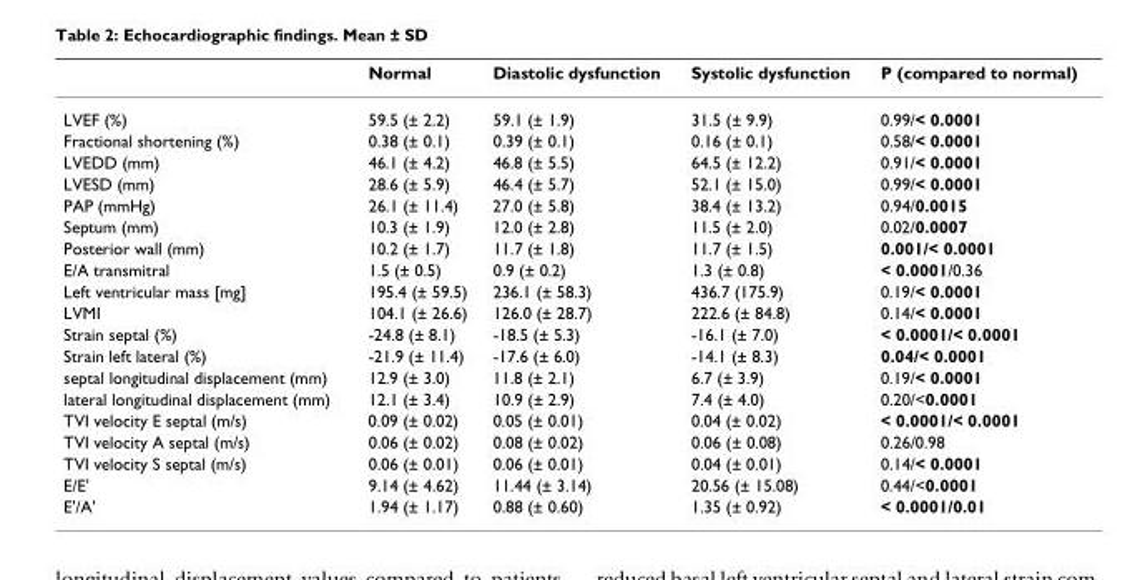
<table><thead><tr><td></td><td>Normal</td><td>Diastolic dysfunction</td><td>Systolic dysfunction</td><td>P (compared to normal)</td></tr></thead><tbody><tr><td>LVEF (%)</td><td>59.5 (± 2.2)</td><td>59.1 (± 1.9)</td><td>31.5 (± 9.9)</td><td>0.99/&lt; 0.0001</td></tr><tr><td>Fractional shortening (%)</td><td>0.38 (± 0.1)</td><td>0.39 (± 0.1)</td><td>0.16 (± 0.1)</td><td>0.58/&lt; 0.0001</td></tr><tr><td>LVEDD (mm)</td><td>46.1 (± 4.2)</td><td>46.8 (± 5.5)</td><td>64.5 (± 12.2)</td><td>0.91/&lt; 0.0001</td></tr><tr><td>LVESD (mm)</td><td>28.6 (± 5.9)</td><td>46.4 (± 5.7)</td><td>52.1 (± 15.0)</td><td>0.99/&lt; 0.0001</td></tr><tr><td>PAP (mmHg)</td><td>26.1 (± 11.4)</td><td>27.0 (± 5.8)</td><td>38.4 (± 13.2)</td><td>0.94/0.0015</td></tr><tr><td>Septum (mm)</td><td>10.3 (± 1.9)</td><td>12.0 (± 2.8)</td><td>11.5 (± 2.0)</td><td>0.02/0.0007</td></tr><tr><td>Posterior wall (mm)</td><td>10.2 (± 1.7)</td><td>11.7 (± 1.8)</td><td>11.7 (± 1.5)</td><td>0.001/&lt; 0.0001</td></tr><tr><td>E/A transmitral</td><td>1.5 (± 0.5)</td><td>0.9 (± 0.2)</td><td>1.3 (± 0.8)</td><td>&lt; 0.0001/0.36</td></tr><tr><td>Left ventricular mass [mg]</td><td>195.4 (± 59.5)</td><td>236.1 (± 58.3)</td><td>436.7 (175.9)</td><td>0.19/&lt; 0.0001</td></tr><tr><td>LVMI</td><td>104.1 (± 26.6)</td><td>126.0 (± 28.7)</td><td>222.6 (± 84.8)</td><td>0.14/&lt; 0.0001</td></tr><tr><td>Strain septal (%)</td><td>-24.8 (± 8.1)</td><td>-18.5 (± 5.3)</td><td>-16.1 (± 7.0)</td><td>&lt; 0.0001/&lt; 0.0001</td></tr><tr><td>Strain left lateral (%)</td><td>-21.9 (± 11.4)</td><td>-17.6 (± 6.0)</td><td>-14.1 (± 8.3)</td><td>0.04/&lt; 0.0001</td></tr><tr><td>septal longitudinal displacement (mm)</td><td>12.9 (± 3.0)</td><td>11.8 (± 2.1)</td><td>6.7 (± 3.9)</td><td>0.19/&lt; 0.0001</td></tr><tr><td>lateral longitudinal displacement (mm)</td><td>12.1 (± 3.4)</td><td>10.9 (± 2.9)</td><td>7.4 (± 4.0)</td><td>0.20/&lt;0.0001</td></tr><tr><td>TVI velocity E septal (m/s)</td><td>0.09 (± 0.02)</td><td>0.05 (± 0.01)</td><td>0.04 (± 0.02)</td><td>&lt; 0.0001/&lt; 0.0001</td></tr><tr><td>TVI velocity A septal (m/s)</td><td>0.06 (± 0.02)</td><td>0.08 (± 0.02)</td><td>0.06 (± 0.08)</td><td>0.26/0.98</td></tr><tr><td>TVI velocity S septal (m/s)</td><td>0.06 (± 0.01)</td><td>0.06 (± 0.01)</td><td>0.04 (± 0.01)</td><td>0.14/&lt; 0.0001</td></tr><tr><td>E/E&#x27;</td><td>9.14 (± 4.62)</td><td>11.44 (± 3.14)</td><td>20.56 (± 15.08)</td><td>0.44/&lt;0.0001</td></tr><tr><td>E&#x27;/A&#x27;</td><td>1.94 (± 1.17)</td><td>0.88 (± 0.60)</td><td>1.35 (± 0.92)</td><td>&lt; 0.0001/0.01</td></tr></tbody></table>